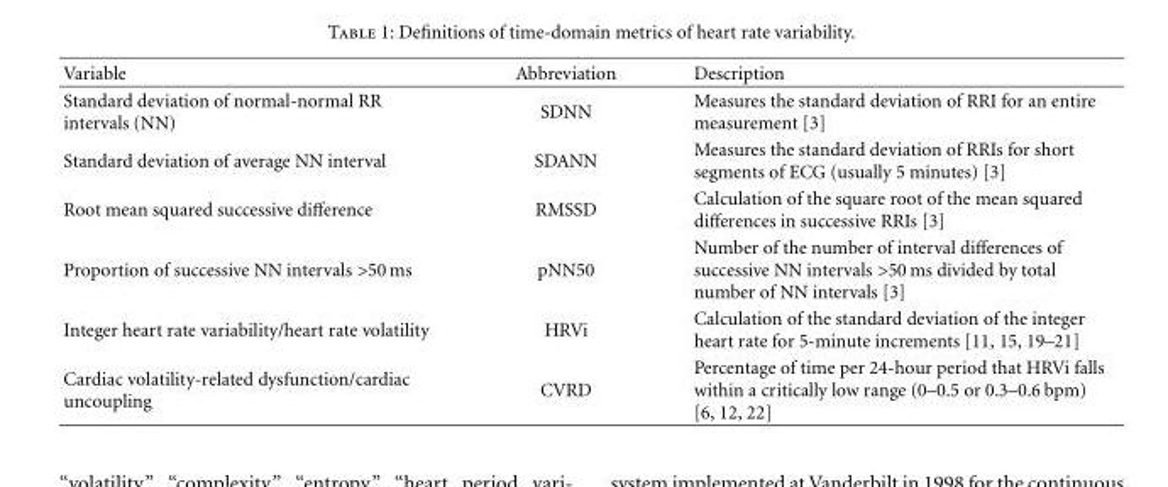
<table><thead><tr><td>Variable</td><td>Abbreviation</td><td>Description</td></tr></thead><tbody><tr><td>Standard deviation of normal-normal RR intervals (NN)</td><td>SDNN</td><td>Measures the standard deviation of RRI for an entire measurement [3]</td></tr><tr><td>Standard deviation of average NN interval</td><td>SDANN</td><td>Measures the standard deviation of RRIs for short segments of ECG (usually 5 minutes) [3]</td></tr><tr><td>Root mean squared successive difference</td><td>RMSSD</td><td>Calculation of the square root of the mean squared differences in successive RRIs [3]</td></tr><tr><td>Proportion of successive NN intervals &gt;50 ms</td><td>pNN50</td><td>Number of the number of interval differences of successive NN intervals &gt;50 ms divided by total number of NN intervals [3]</td></tr><tr><td>Integer heart rate variability/heart rate volatility</td><td>HRVi</td><td>Calculation of the standard deviation of the integer heart rate for 5-minute increments [11, 15, 19–21]</td></tr><tr><td>Cardiac volatility-related dysfunction/cardiac uncoupling</td><td>CVRD</td><td>Percentage of time per 24-hour period that HRVi falls within a critically low range (0–0.5 or 0.3–0.6 bpm) [6, 12, 22]</td></tr></tbody></table>